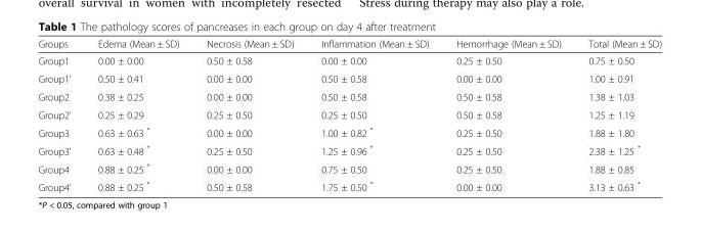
<table><thead><tr><td>Groups</td><td>Edema (Mean ± SD)</td><td>Necrosis (Mean ± SD)</td><td>Inflammation (Mean ± SD)</td><td>Hemorrhage (Mean ± SD)</td><td>Total (Mean ± SD)</td></tr></thead><tbody><tr><td>Group1</td><td>0.00 ± 0.00</td><td>0.50 ± 0.58</td><td>0.00 ± 0.00</td><td>0.25 ± 0.50</td><td>0.75 ± 0.50</td></tr><tr><td>Group1’</td><td>0.50 ± 0.41</td><td>0.00 ± 0.00</td><td>0.50 ± 0.58</td><td>0.00 ± 0.00</td><td>1.00 ± 0.91</td></tr><tr><td>Group2</td><td>0.38 ± 0.25</td><td>0.00 ± 0.00</td><td>0.50 ± 0.58</td><td>0.50 ± 0.58</td><td>1.38 ± 1.03</td></tr><tr><td>Group2’</td><td>0.25 ± 0.29</td><td>0.25 ± 0.50</td><td>0.25 ± 0.50</td><td>0.50 ± 0.58</td><td>1.25 ± 1.19</td></tr><tr><td>Group3</td><td>0.63 ± 0.63 *</td><td>0.00 ± 0.00</td><td>1.00 ± 0.82 *</td><td>0.25 ± 0.50</td><td>1.88 ± 1.80</td></tr><tr><td>Group3’</td><td>0.63 ± 0.48 *</td><td>0.25 ± 0.50</td><td>1.25 ± 0.96 *</td><td>0.25 ± 0.50</td><td>2.38 ± 1.25 *</td></tr><tr><td>Group4</td><td>0.88 ± 0.25 *</td><td>0.00 ± 0.00</td><td>0.75 ± 0.50</td><td>0.25 ± 0.50</td><td>1.88 ± 0.85</td></tr><tr><td>Group4’</td><td>0.88 ± 0.25 *</td><td>0.50 ± 0.58</td><td>1.75 ± 0.50 *</td><td>0.00 ± 0.00</td><td>3.13 ± 0.63 *</td></tr></tbody></table>